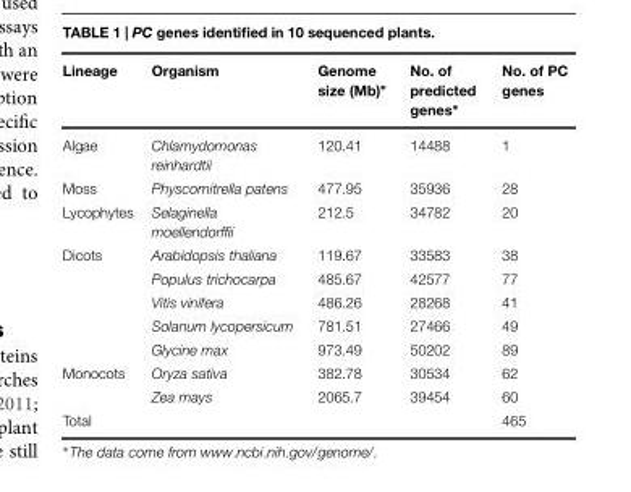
<table><thead><tr><td>Lineage</td><td>Organism</td><td>Genome size (Mb)∗</td><td>No. of predicted genes∗</td><td>No. of PC genes</td></tr></thead><tbody><tr><td>Algae</td><td>Chlamydomonas reinhardtii</td><td>120.41</td><td>14488</td><td>1</td></tr><tr><td>Moss</td><td>Physcomitrella patens</td><td>477.95</td><td>35936</td><td>28</td></tr><tr><td>Lycophytes</td><td>Selaginella moellendorffii</td><td>212.5</td><td>34782</td><td>20</td></tr><tr><td rowspan="5">Dicots</td><td>Arabidopsis thaliana</td><td>119.67</td><td>33583</td><td>38</td></tr><tr><td>Populus trichocarpa</td><td>485.67</td><td>42577</td><td>77</td></tr><tr><td>Vitis vinifera</td><td>486.26</td><td>28268</td><td>41</td></tr><tr><td>Solanum lycopersicum</td><td>781.51</td><td>27466</td><td>49</td></tr><tr><td>Glycine max</td><td>973.49</td><td>50202</td><td>89</td></tr><tr><td rowspan="2">Monocots</td><td>Oryza sativa</td><td>382.78</td><td>30534</td><td>62</td></tr><tr><td>Zea mays</td><td>2065.7</td><td>39454</td><td>60</td></tr><tr><td>Total</td><td></td><td></td><td></td><td>465</td></tr></tbody></table>